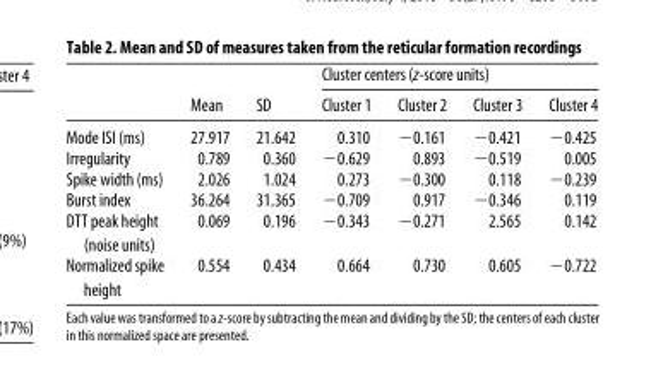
<table><thead><tr><td rowspan="2"></td><td rowspan="2">Mean</td><td rowspan="2">SD</td><td colspan="4">Cluster centers (z-score units)</td></tr><tr><td>Cluster 1</td><td>Cluster 2</td><td>Cluster 3</td><td>Cluster 4</td></tr></thead><tbody><tr><td>Mode ISI (ms)</td><td>27.917</td><td>21.642</td><td>0.310</td><td>−0.161</td><td>−0.421</td><td>−0.425</td></tr><tr><td>Irregularity</td><td>0.789</td><td>0.360</td><td>−0.629</td><td>0.893</td><td>−0.519</td><td>0.005</td></tr><tr><td>Spike width (ms)</td><td>2.026</td><td>1.024</td><td>0.273</td><td>−0.300</td><td>0.118</td><td>−0.239</td></tr><tr><td>Burst index</td><td>36.264</td><td>31.365</td><td>−0.709</td><td>0.917</td><td>−0.346</td><td>0.119</td></tr><tr><td>DTT peak height (noise units)</td><td>0.069</td><td>0.196</td><td>−0.343</td><td>−0.271</td><td>2.565</td><td>0.142</td></tr><tr><td>Normalized spike height</td><td>0.554</td><td>0.434</td><td>0.664</td><td>0.730</td><td>0.605</td><td>−0.722</td></tr></tbody></table>